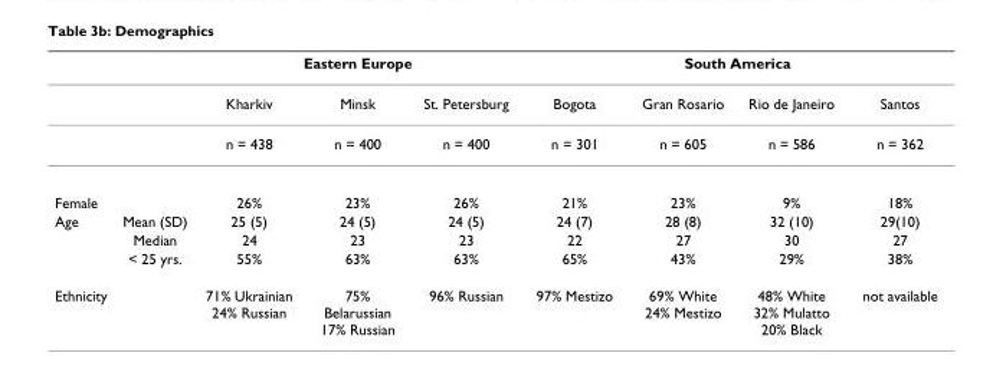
<table><thead><tr><td rowspan="2"></td><td rowspan="2"></td><td colspan="3">Eastern Europe</td><td colspan="4">South America</td></tr><tr><td>Kharkiv</td><td>Minsk</td><td>St. Petersburg</td><td>Bogota</td><td>Gran Rosario</td><td>Rio de Janeiro</td><td>Santos</td></tr></thead><tbody><tr><td></td><td></td><td>n = 438</td><td>n = 400</td><td>n = 400</td><td>n = 301</td><td>n = 605</td><td>n = 586</td><td>n = 362</td></tr><tr><td>Female</td><td></td><td>26%</td><td>23%</td><td>26%</td><td>21%</td><td>23%</td><td>9%</td><td>18%</td></tr><tr><td rowspan="3">Age</td><td>Mean (SD)</td><td>25 (5)</td><td>24 (5)</td><td>24 (5)</td><td>24 (7)</td><td>28 (8)</td><td>32 (10)</td><td>29(10)</td></tr><tr><td>Median</td><td>24</td><td>23</td><td>23</td><td>22</td><td>27</td><td>30</td><td>27</td></tr><tr><td>&lt; 25 yrs.</td><td>55%</td><td>63%</td><td>63%</td><td>65%</td><td>43%</td><td>29%</td><td>38%</td></tr><tr><td>Ethnicity</td><td></td><td>71% Ukrainian 24% Russian</td><td>75% Belarussian 17% Russian</td><td>96% Russian</td><td>97% Mestizo</td><td>69% White 24% Mestizo</td><td>48% White 32% Mulatto 20% Black</td><td>not available</td></tr></tbody></table>